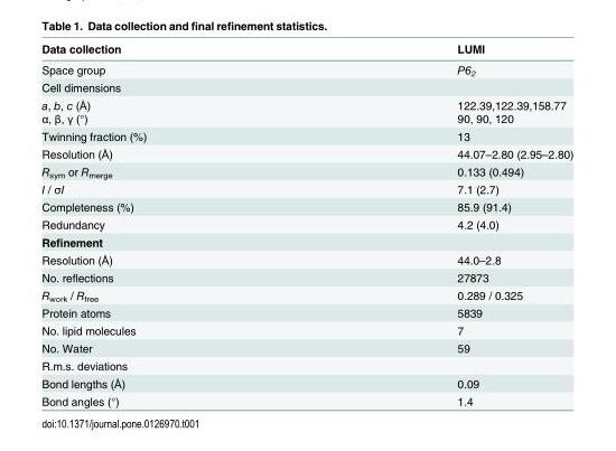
<table><thead><tr><td>Data collection</td><td>LUMI</td></tr></thead><tbody><tr><td>Space group</td><td>P6<sub>2</sub></td></tr><tr><td colspan="2">Cell dimensions</td></tr><tr><td>a, b, c (Å) α, β, γ (°)</td><td>122.39,122.39,158.77 90, 90, 120</td></tr><tr><td>Twinning fraction (%)</td><td>13</td></tr><tr><td>Resolution (Å)</td><td>44.07–2.80 (2.95–2.80)</td></tr><tr><td>R<sub>sym</sub> or R<sub>merge</sub></td><td>0.133 (0.494)</td></tr><tr><td>I / σI</td><td>7.1 (2.7)</td></tr><tr><td>Completeness (%)</td><td>85.9 (91.4)</td></tr><tr><td>Redundancy</td><td>4.2 (4.0)</td></tr><tr><td colspan="2">Refinement</td></tr><tr><td>Resolution (Å)</td><td>44.0–2.8</td></tr><tr><td>No. reflections</td><td>27873</td></tr><tr><td>R<sub>work</sub> / R<sub>free</sub></td><td>0.289 / 0.325</td></tr><tr><td>Protein atoms</td><td>5839</td></tr><tr><td>No. lipid molecules</td><td>7</td></tr><tr><td>No. Water</td><td>59</td></tr><tr><td colspan="2">R.m.s. deviations</td></tr><tr><td>Bond lengths (Å)</td><td>0.09</td></tr><tr><td>Bond angles (°)</td><td>1.4</td></tr></tbody></table>